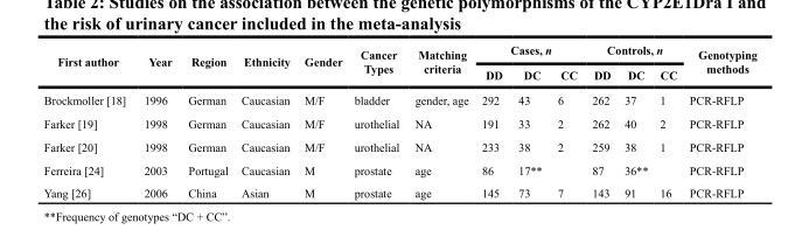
<table><thead><tr><td rowspan="2">First author</td><td rowspan="2">Year</td><td rowspan="2">Region</td><td rowspan="2">Ethnicity</td><td rowspan="2">Gender</td><td rowspan="2">Cancer Types</td><td rowspan="2">Matching criteria</td><td colspan="3">Cases, n</td><td colspan="3">Controls, n</td><td rowspan="2">Genotyping methods</td></tr><tr><td>DD</td><td>DC</td><td>CC</td><td>DD</td><td>DC</td><td>CC</td></tr></thead><tbody><tr><td>Brockmoller [18]</td><td>1996</td><td>German</td><td>Caucasian</td><td>M/F</td><td>bladder</td><td>gender, age</td><td>292</td><td>43</td><td>6</td><td>262</td><td>37</td><td>1</td><td>PCR-RFLP</td></tr><tr><td>Farker [19]</td><td>1998</td><td>German</td><td>Caucasian</td><td>M/F</td><td>urothelial</td><td>NA</td><td>191</td><td>33</td><td>2</td><td>262</td><td>40</td><td>2</td><td>PCR-RFLP</td></tr><tr><td>Farker [20]</td><td>1998</td><td>German</td><td>Caucasian</td><td>M/F</td><td>urothelial</td><td>NA</td><td>233</td><td>38</td><td>2</td><td>259</td><td>38</td><td>1</td><td>PCR-RFLP</td></tr><tr><td>Ferreira [24]</td><td>2003</td><td>Portugal</td><td>Caucasian</td><td>M</td><td>prostate</td><td>age</td><td>86</td><td>17**</td><td></td><td>87</td><td>36**</td><td></td><td>PCR-RFLP</td></tr><tr><td>Yang [26]</td><td>2006</td><td>China</td><td>Asian</td><td>M</td><td>prostate</td><td>age</td><td>145</td><td>73</td><td>7</td><td>143</td><td>91</td><td>16</td><td>PCR-RFLP</td></tr></tbody></table>